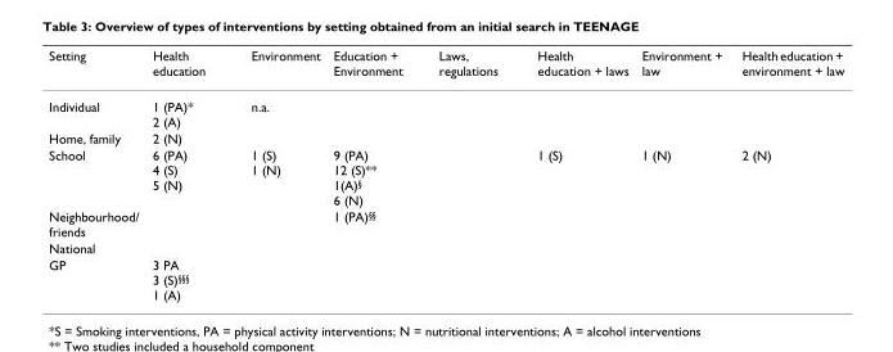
<table><thead><tr><td>Setting</td><td>Health education</td><td>Environment</td><td>Education + Environment</td><td>Laws, regulations</td><td>Health education + laws</td><td>Environment + law</td><td>Health education + environment + law</td></tr></thead><tbody><tr><td>Individual</td><td>1 (PA)* 2 (A)</td><td>n.a.</td><td></td><td></td><td></td><td></td><td></td></tr><tr><td>Home, family</td><td>2 (N)</td><td></td><td></td><td></td><td></td><td></td><td></td></tr><tr><td>School</td><td>6 (PA) 4 (S) 5 (N)</td><td>1 (S) 1 (N)</td><td>9 (PA) 12 (S)** 1(A)<sup>§</sup> 6 (N)</td><td></td><td>1 (S)</td><td>1 (N)</td><td>2 (N)</td></tr><tr><td>Neighbourhood/ friends</td><td></td><td></td><td>1 (PA)<sup>§§</sup></td><td></td><td></td><td></td><td></td></tr><tr><td colspan="8">National</td></tr><tr><td>GP</td><td>3 PA 3 (S)<sup>§§§</sup> 1 (A)</td><td></td><td></td><td></td><td></td><td></td><td></td></tr></tbody></table>